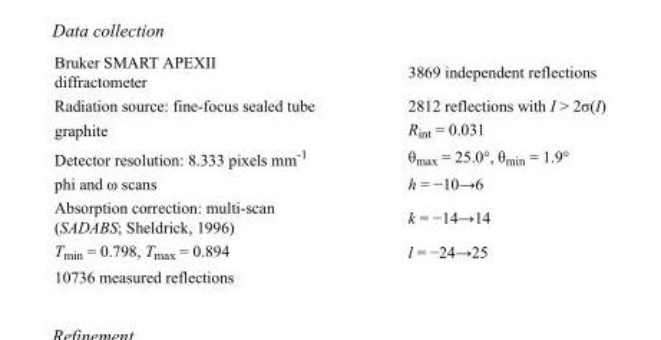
<table><tbody><tr><td>Bruker SMART APEXII diffractometer</td><td>3869 independent reflections</td></tr><tr><td>Radiation source: fine-focus sealed tube</td><td>2812 reflections with I &gt; 2σ(I)</td></tr><tr><td>graphite</td><td>R<sub>int</sub> = 0.031</td></tr><tr><td>Detector resolution: 8.333 pixels mm<sup>-1</sup></td><td>θ<sub>max</sub> = 25.0°, θ<sub>min</sub> = 1.9°</td></tr><tr><td>phi and ω scans</td><td>h = −10→6</td></tr><tr><td>Absorption correction: multi-scan (SADABS; Sheldrick, 1996)</td><td>k = −14→14</td></tr><tr><td>T<sub>min</sub> = 0.798, T<sub>max</sub> = 0.894</td><td>l = −24→25</td></tr><tr><td>10736 measured reflections</td><td></td></tr></tbody></table>